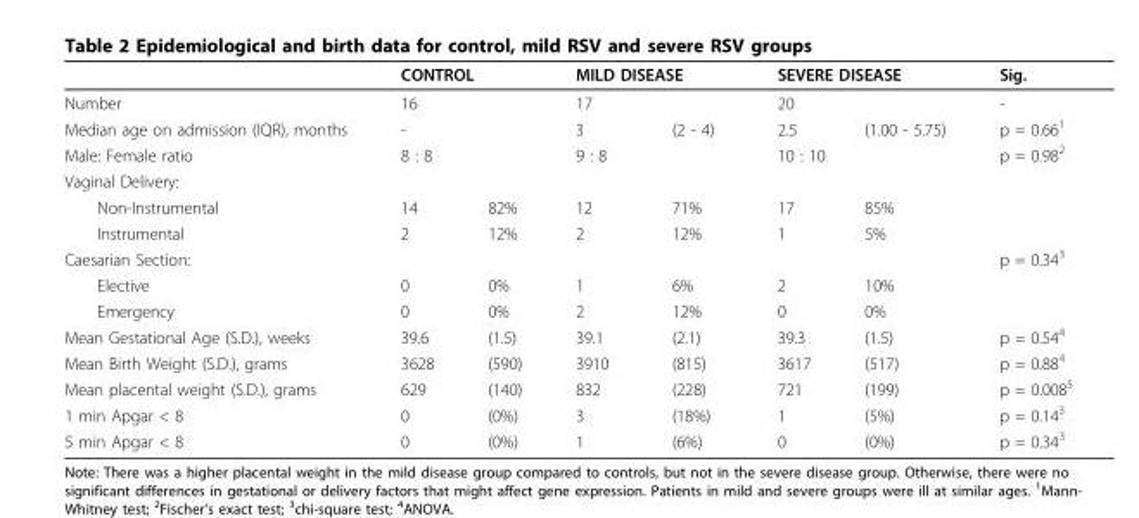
<table><thead><tr><td></td><td colspan="2">CONTROL</td><td colspan="2">MILD DISEASE</td><td colspan="2">SEVERE DISEASE</td><td>Sig.</td></tr></thead><tbody><tr><td>Number</td><td colspan="2">16</td><td colspan="2">17</td><td colspan="2">20</td><td>-</td></tr><tr><td>Median age on admission (IQR), months</td><td colspan="2">-</td><td>3</td><td>(2 - 4)</td><td>2.5</td><td>(1.00 - 5.75)</td><td>p = 0.66<sup>1</sup></td></tr><tr><td>Male: Female ratio</td><td colspan="2">8 : 8</td><td colspan="2">9 : 8</td><td colspan="2">10 : 10</td><td>p = 0.98<sup>2</sup></td></tr><tr><td colspan="8">Vaginal Delivery:</td></tr><tr><td>Non-Instrumental</td><td>14</td><td>82%</td><td>12</td><td>71%</td><td>17</td><td>85%</td><td></td></tr><tr><td>Instrumental</td><td>2</td><td>12%</td><td>2</td><td>12%</td><td>1</td><td>5%</td><td></td></tr><tr><td>Caesarian Section:</td><td></td><td></td><td></td><td></td><td></td><td></td><td>p = 0.34<sup>3</sup></td></tr><tr><td>Elective</td><td>0</td><td>0%</td><td>1</td><td>6%</td><td>2</td><td>10%</td><td></td></tr><tr><td>Emergency</td><td>0</td><td>0%</td><td>2</td><td>12%</td><td>0</td><td>0%</td><td></td></tr><tr><td>Mean Gestational Age (S.D.), weeks</td><td>39.6</td><td>(1.5)</td><td>39.1</td><td>(2.1)</td><td>39.3</td><td>(1.5)</td><td>p = 0.54<sup>4</sup></td></tr><tr><td>Mean Birth Weight (S.D.), grams</td><td>3628</td><td>(590)</td><td>3910</td><td>(815)</td><td>3617</td><td>(517)</td><td>p = 0.88<sup>4</sup></td></tr><tr><td>Mean placental weight (S.D.), grams</td><td>629</td><td>(140)</td><td>832</td><td>(228)</td><td>721</td><td>(199)</td><td>p = 0.008<sup>5</sup></td></tr><tr><td>1 min Apgar &lt; 8</td><td>0</td><td>(0%)</td><td>3</td><td>(18%)</td><td>1</td><td>(5%)</td><td>p = 0.14<sup>3</sup></td></tr><tr><td>5 min Apgar &lt; 8</td><td>0</td><td>(0%)</td><td>1</td><td>(6%)</td><td>0</td><td>(0%)</td><td>p = 0.34<sup>3</sup></td></tr></tbody></table>